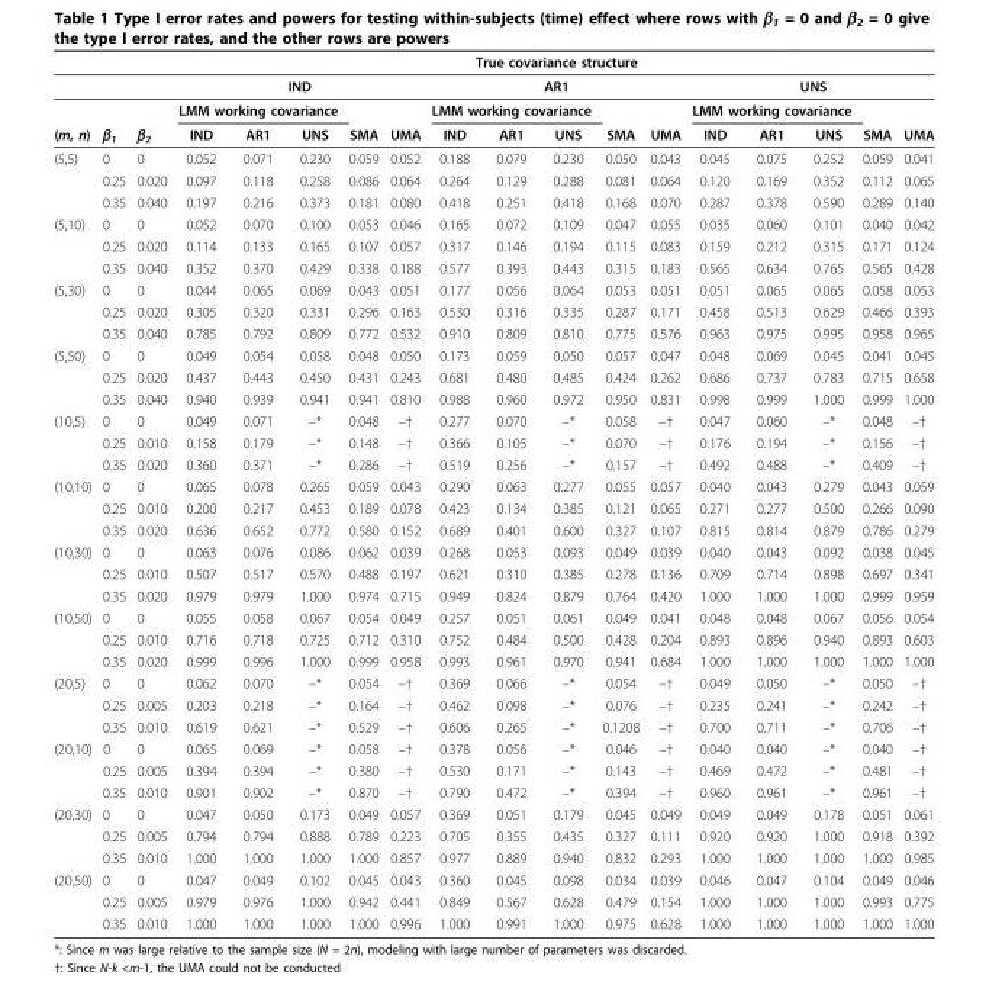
<table><thead><tr><td rowspan="4">(m, n)</td><td rowspan="4">β<sub>1</sub></td><td rowspan="4">β<sub>2</sub></td><td colspan="15">True covariance structure</td></tr><tr><td colspan="5">IND</td><td colspan="5">AR1</td><td colspan="5">UNS</td></tr><tr><td colspan="3">LMM working covariance</td><td rowspan="2">SMA</td><td rowspan="2">UMA</td><td colspan="3">LMM working covariance</td><td rowspan="2">SMA</td><td rowspan="2">UMA</td><td colspan="3">LMM working covariance</td><td rowspan="2">SMA</td><td rowspan="2">UMA</td></tr><tr><td>IND</td><td>AR1</td><td>UNS</td><td>IND</td><td>AR1</td><td>UNS</td><td>IND</td><td>AR1</td><td>UNS</td></tr></thead><tbody><tr><td rowspan="3">(5,5)</td><td>0</td><td>0</td><td>0.052</td><td>0.071</td><td>0.230</td><td>0.059</td><td>0.052</td><td>0.188</td><td>0.079</td><td>0.230</td><td>0.050</td><td>0.043</td><td>0.045</td><td>0.075</td><td>0.252</td><td>0.059</td><td>0.041</td></tr><tr><td>0.25</td><td>0.020</td><td>0.097</td><td>0.118</td><td>0.258</td><td>0.086</td><td>0.064</td><td>0.264</td><td>0.129</td><td>0.288</td><td>0.081</td><td>0.064</td><td>0.120</td><td>0.169</td><td>0.352</td><td>0.112</td><td>0.065</td></tr><tr><td>0.35</td><td>0.040</td><td>0.197</td><td>0.216</td><td>0.373</td><td>0.181</td><td>0.080</td><td>0.418</td><td>0.251</td><td>0.418</td><td>0.168</td><td>0.070</td><td>0.287</td><td>0.378</td><td>0.590</td><td>0.289</td><td>0.140</td></tr><tr><td rowspan="3">(5,10)</td><td>0</td><td>0</td><td>0.052</td><td>0.070</td><td>0.100</td><td>0.053</td><td>0.046</td><td>0.165</td><td>0.072</td><td>0.109</td><td>0.047</td><td>0.055</td><td>0.035</td><td>0.060</td><td>0.101</td><td>0.040</td><td>0.042</td></tr><tr><td>0.25</td><td>0.020</td><td>0.114</td><td>0.133</td><td>0.165</td><td>0.107</td><td>0.057</td><td>0.317</td><td>0.146</td><td>0.194</td><td>0.115</td><td>0.083</td><td>0.159</td><td>0.212</td><td>0.315</td><td>0.171</td><td>0.124</td></tr><tr><td>0.35</td><td>0.040</td><td>0.352</td><td>0.370</td><td>0.429</td><td>0.338</td><td>0.188</td><td>0.577</td><td>0.393</td><td>0.443</td><td>0.315</td><td>0.183</td><td>0.565</td><td>0.634</td><td>0.765</td><td>0.565</td><td>0.428</td></tr><tr><td rowspan="3">(5,30)</td><td>0</td><td>0</td><td>0.044</td><td>0.065</td><td>0.069</td><td>0.043</td><td>0.051</td><td>0.177</td><td>0.056</td><td>0.064</td><td>0.053</td><td>0.051</td><td>0.051</td><td>0.065</td><td>0.065</td><td>0.058</td><td>0.053</td></tr><tr><td>0.25</td><td>0.020</td><td>0.305</td><td>0.320</td><td>0.331</td><td>0.296</td><td>0.163</td><td>0.530</td><td>0.316</td><td>0.335</td><td>0.287</td><td>0.171</td><td>0.458</td><td>0.513</td><td>0.629</td><td>0.466</td><td>0.393</td></tr><tr><td>0.35</td><td>0.040</td><td>0.785</td><td>0.792</td><td>0.809</td><td>0.772</td><td>0.532</td><td>0.910</td><td>0.809</td><td>0.810</td><td>0.775</td><td>0.576</td><td>0.963</td><td>0.975</td><td>0.995</td><td>0.958</td><td>0.965</td></tr><tr><td rowspan="3">(5,50)</td><td>0</td><td>0</td><td>0.049</td><td>0.054</td><td>0.058</td><td>0.048</td><td>0.050</td><td>0.173</td><td>0.059</td><td>0.050</td><td>0.057</td><td>0.047</td><td>0.048</td><td>0.069</td><td>0.045</td><td>0.041</td><td>0.045</td></tr><tr><td>0.25</td><td>0.020</td><td>0.437</td><td>0.443</td><td>0.450</td><td>0.431</td><td>0.243</td><td>0.681</td><td>0.480</td><td>0.485</td><td>0.424</td><td>0.262</td><td>0.686</td><td>0.737</td><td>0.783</td><td>0.715</td><td>0.658</td></tr><tr><td>0.35</td><td>0.040</td><td>0.940</td><td>0.939</td><td>0.941</td><td>0.941</td><td>0.810</td><td>0.988</td><td>0.960</td><td>0.972</td><td>0.950</td><td>0.831</td><td>0.998</td><td>0.999</td><td>1.000</td><td>0.999</td><td>1.000</td></tr><tr><td rowspan="3">(10,5)</td><td>0</td><td>0</td><td>0.049</td><td>0.071</td><td>–*</td><td>0.048</td><td>–†</td><td>0.277</td><td>0.070</td><td>–*</td><td>0.058</td><td>–†</td><td>0.047</td><td>0.060</td><td>–*</td><td>0.048</td><td>–†</td></tr><tr><td>0.25</td><td>0.010</td><td>0.158</td><td>0.179</td><td>–*</td><td>0.148</td><td>–†</td><td>0.366</td><td>0.105</td><td>–*</td><td>0.070</td><td>–†</td><td>0.176</td><td>0.194</td><td>–*</td><td>0.156</td><td>–†</td></tr><tr><td>0.35</td><td>0.020</td><td>0.360</td><td>0.371</td><td>–*</td><td>0.286</td><td>–†</td><td>0.519</td><td>0.256</td><td>–*</td><td>0.157</td><td>–†</td><td>0.492</td><td>0.488</td><td>–*</td><td>0.409</td><td>–†</td></tr><tr><td rowspan="3">(10,10)</td><td>0</td><td>0</td><td>0.065</td><td>0.078</td><td>0.265</td><td>0.059</td><td>0.043</td><td>0.290</td><td>0.063</td><td>0.277</td><td>0.055</td><td>0.057</td><td>0.040</td><td>0.043</td><td>0.279</td><td>0.043</td><td>0.059</td></tr><tr><td>0.25</td><td>0.010</td><td>0.200</td><td>0.217</td><td>0.453</td><td>0.189</td><td>0.078</td><td>0.423</td><td>0.134</td><td>0.385</td><td>0.121</td><td>0.065</td><td>0.271</td><td>0.277</td><td>0.500</td><td>0.266</td><td>0.090</td></tr><tr><td>0.35</td><td>0.020</td><td>0.636</td><td>0.652</td><td>0.772</td><td>0.580</td><td>0.152</td><td>0.689</td><td>0.401</td><td>0.600</td><td>0.327</td><td>0.107</td><td>0.815</td><td>0.814</td><td>0.879</td><td>0.786</td><td>0.279</td></tr><tr><td rowspan="3">(10,30)</td><td>0</td><td>0</td><td>0.063</td><td>0.076</td><td>0.086</td><td>0.062</td><td>0.039</td><td>0.268</td><td>0.053</td><td>0.093</td><td>0.049</td><td>0.039</td><td>0.040</td><td>0.043</td><td>0.092</td><td>0.038</td><td>0.045</td></tr><tr><td>0.25</td><td>0.010</td><td>0.507</td><td>0.517</td><td>0.570</td><td>0.488</td><td>0.197</td><td>0.621</td><td>0.310</td><td>0.385</td><td>0.278</td><td>0.136</td><td>0.709</td><td>0.714</td><td>0.898</td><td>0.697</td><td>0.341</td></tr><tr><td>0.35</td><td>0.020</td><td>0.979</td><td>0.979</td><td>1.000</td><td>0.974</td><td>0.715</td><td>0.949</td><td>0.824</td><td>0.879</td><td>0.764</td><td>0.420</td><td>1.000</td><td>1.000</td><td>1.000</td><td>0.999</td><td>0.959</td></tr><tr><td rowspan="3">(10,50)</td><td>0</td><td>0</td><td>0.055</td><td>0.058</td><td>0.067</td><td>0.054</td><td>0.049</td><td>0.257</td><td>0.051</td><td>0.061</td><td>0.049</td><td>0.041</td><td>0.048</td><td>0.048</td><td>0.067</td><td>0.056</td><td>0.054</td></tr><tr><td>0.25</td><td>0.010</td><td>0.716</td><td>0.718</td><td>0.725</td><td>0.712</td><td>0.310</td><td>0.752</td><td>0.484</td><td>0.500</td><td>0.428</td><td>0.204</td><td>0.893</td><td>0.896</td><td>0.940</td><td>0.893</td><td>0.603</td></tr><tr><td>0.35</td><td>0.020</td><td>0.999</td><td>0.996</td><td>1.000</td><td>0.999</td><td>0.958</td><td>0.993</td><td>0.961</td><td>0.970</td><td>0.941</td><td>0.684</td><td>1.000</td><td>1.000</td><td>1.000</td><td>1.000</td><td>1.000</td></tr><tr><td rowspan="3">(20,5)</td><td>0</td><td>0</td><td>0.062</td><td>0.070</td><td>–*</td><td>0.054</td><td>–†</td><td>0.369</td><td>0.066</td><td>–*</td><td>0.054</td><td>–†</td><td>0.049</td><td>0.050</td><td>–*</td><td>0.050</td><td>–†</td></tr><tr><td>0.25</td><td>0.005</td><td>0.203</td><td>0.218</td><td>–*</td><td>0.164</td><td>–†</td><td>0.462</td><td>0.098</td><td>–*</td><td>0.076</td><td>–†</td><td>0.235</td><td>0.241</td><td>–*</td><td>0.242</td><td>–†</td></tr><tr><td>0.35</td><td>0.010</td><td>0.619</td><td>0.621</td><td>–*</td><td>0.529</td><td>–†</td><td>0.606</td><td>0.265</td><td>–*</td><td>0.1208</td><td>–†</td><td>0.700</td><td>0.711</td><td>–*</td><td>0.706</td><td>–†</td></tr><tr><td rowspan="3">(20,10)</td><td>0</td><td>0</td><td>0.065</td><td>0.069</td><td>–*</td><td>0.058</td><td>–†</td><td>0.378</td><td>0.056</td><td>–*</td><td>0.046</td><td>–†</td><td>0.040</td><td>0.040</td><td>–*</td><td>0.040</td><td>–†</td></tr><tr><td>0.25</td><td>0.005</td><td>0.394</td><td>0.394</td><td>–*</td><td>0.380</td><td>–†</td><td>0.530</td><td>0.171</td><td>–*</td><td>0.143</td><td>–†</td><td>0.469</td><td>0.472</td><td>–*</td><td>0.481</td><td>–†</td></tr><tr><td>0.35</td><td>0.010</td><td>0.901</td><td>0.902</td><td>–*</td><td>0.870</td><td>–†</td><td>0.790</td><td>0.472</td><td>–*</td><td>0.394</td><td>–†</td><td>0.960</td><td>0.961</td><td>–*</td><td>0.961</td><td>–†</td></tr><tr><td rowspan="3">(20,30)</td><td>0</td><td>0</td><td>0.047</td><td>0.050</td><td>0.173</td><td>0.049</td><td>0.057</td><td>0.369</td><td>0.051</td><td>0.179</td><td>0.045</td><td>0.049</td><td>0.049</td><td>0.049</td><td>0.178</td><td>0.051</td><td>0.061</td></tr><tr><td>0.25</td><td>0.005</td><td>0.794</td><td>0.794</td><td>0.888</td><td>0.789</td><td>0.223</td><td>0.705</td><td>0.355</td><td>0.435</td><td>0.327</td><td>0.111</td><td>0.920</td><td>0.920</td><td>1.000</td><td>0.918</td><td>0.392</td></tr><tr><td>0.35</td><td>0.010</td><td>1.000</td><td>1.000</td><td>1.000</td><td>1.000</td><td>0.857</td><td>0.977</td><td>0.889</td><td>0.940</td><td>0.832</td><td>0.293</td><td>1.000</td><td>1.000</td><td>1.000</td><td>1.000</td><td>0.985</td></tr><tr><td rowspan="3">(20,50)</td><td>0</td><td>0</td><td>0.047</td><td>0.049</td><td>0.102</td><td>0.045</td><td>0.043</td><td>0.360</td><td>0.045</td><td>0.098</td><td>0.034</td><td>0.039</td><td>0.046</td><td>0.047</td><td>0.104</td><td>0.049</td><td>0.046</td></tr><tr><td>0.25</td><td>0.005</td><td>0.979</td><td>0.976</td><td>1.000</td><td>0.942</td><td>0.441</td><td>0.849</td><td>0.567</td><td>0.628</td><td>0.479</td><td>0.154</td><td>1.000</td><td>1.000</td><td>1.000</td><td>0.993</td><td>0.775</td></tr><tr><td>0.35</td><td>0.010</td><td>1.000</td><td>1.000</td><td>1.000</td><td>1.000</td><td>0.996</td><td>1.000</td><td>0.991</td><td>1.000</td><td>0.975</td><td>0.628</td><td>1.000</td><td>1.000</td><td>1.000</td><td>1.000</td><td>1.000</td></tr></tbody></table>